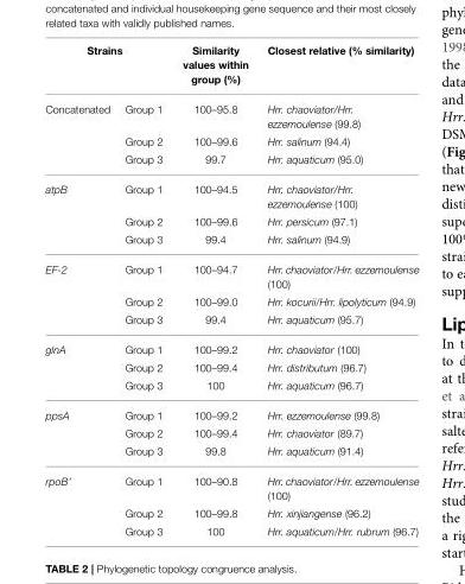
<table><thead><tr><td colspan="2">Strains</td><td rowspan="2">Similarity values within group (%) 100–95.8</td><td rowspan="2">Closest relative (% similarity) Hrr. chaoviator/Hrr. ezzemoulense (99.8)</td></tr><tr><td>Concatenated</td><td>Group 1</td></tr></thead><tbody><tr><td></td><td>Group 2</td><td>100–99.6</td><td>Hrr. salinum (94.4)</td></tr><tr><td></td><td>Group 3</td><td>99.7</td><td>Hrr. aquaticum (95.0)</td></tr><tr><td rowspan="3">atpB</td><td>Group 1</td><td>100–94.5</td><td>Hrr. chaoviator/Hrr. ezzemoulense (100)</td></tr><tr><td>Group 2</td><td>100–99.6</td><td>Hrr. persicum (97.1)</td></tr><tr><td>Group 3</td><td>99.4</td><td>Hrr. salinum (94.9)</td></tr><tr><td rowspan="3">EF-2</td><td>Group 1</td><td>100–94.7</td><td>Hrr. chaoviator/Hrr. ezzemoulense (100)</td></tr><tr><td>Group 2</td><td>100–99.0</td><td>Hrr. kocurii/Hrr. lipolyticum (94.9)</td></tr><tr><td>Group 3</td><td>99.4</td><td>Hrr. aquaticum (95.7)</td></tr><tr><td rowspan="3">glnA</td><td>Group 1</td><td>100–99.2</td><td>Hrr. chaoviator (100)</td></tr><tr><td>Group 2</td><td>100–99.4</td><td>Hrr. distributum (96.7)</td></tr><tr><td>Group 3</td><td>100</td><td>Hrr. aquaticum (96.7)</td></tr><tr><td rowspan="3">ppsA</td><td>Group 1</td><td>100–99.2</td><td>Hrr. ezzemoulense (99.8)</td></tr><tr><td>Group 2</td><td>100–99.4</td><td>Hrr. chaoviator (89.7)</td></tr><tr><td>Group 3</td><td>99.8</td><td>Hrr. aquaticum (91.4)</td></tr><tr><td rowspan="3">rpoB’</td><td>Group 1</td><td>100–90.8</td><td>Hrr. chaoviator/Hrr. ezzemoulense (100)</td></tr><tr><td>Group 2</td><td>100–99.8</td><td>Hrr. xinjiangense (96.2)</td></tr><tr><td>Group 3</td><td>100</td><td>Hrr. aquaticum/Hrr. rubrum (96.7)</td></tr></tbody></table>